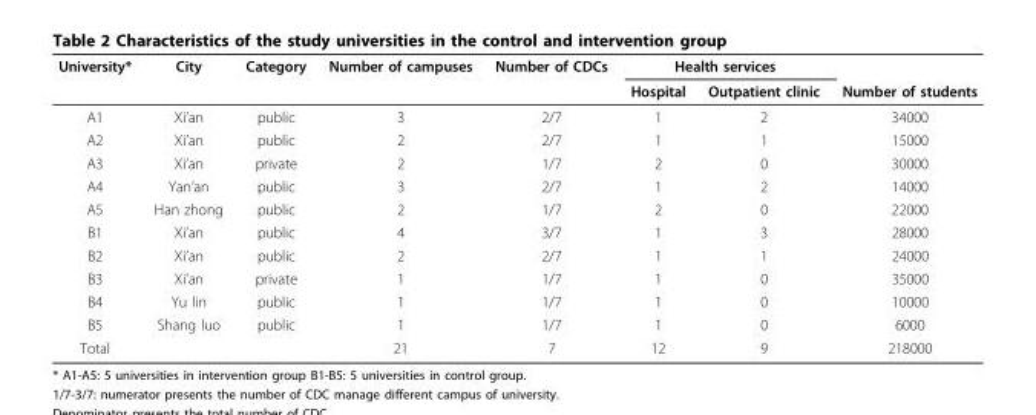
<table><thead><tr><td rowspan="2">University*</td><td rowspan="2">City</td><td rowspan="2">Category</td><td rowspan="2">Number of campuses</td><td rowspan="2">Number of CDCs</td><td colspan="2">Health services</td><td rowspan="2">Number of students</td></tr><tr><td>Hospital</td><td>Outpatient clinic</td></tr></thead><tbody><tr><td>A1</td><td>Xi’an</td><td>public</td><td>3</td><td>2/7</td><td>1</td><td>2</td><td>34000</td></tr><tr><td>A2</td><td>Xi’an</td><td>public</td><td>2</td><td>2/7</td><td>1</td><td>1</td><td>15000</td></tr><tr><td>A3</td><td>Xi’an</td><td>private</td><td>2</td><td>1/7</td><td>2</td><td>0</td><td>30000</td></tr><tr><td>A4</td><td>Yan’an</td><td>public</td><td>3</td><td>2/7</td><td>1</td><td>2</td><td>14000</td></tr><tr><td>A5</td><td>Han zhong</td><td>public</td><td>2</td><td>1/7</td><td>2</td><td>0</td><td>22000</td></tr><tr><td>B1</td><td>Xi’an</td><td>public</td><td>4</td><td>3/7</td><td>1</td><td>3</td><td>28000</td></tr><tr><td>B2</td><td>Xi’an</td><td>public</td><td>2</td><td>2/7</td><td>1</td><td>1</td><td>24000</td></tr><tr><td>B3</td><td>Xi’an</td><td>private</td><td>1</td><td>1/7</td><td>1</td><td>0</td><td>35000</td></tr><tr><td>B4</td><td>Yu lin</td><td>public</td><td>1</td><td>1/7</td><td>1</td><td>0</td><td>10000</td></tr><tr><td>B5</td><td>Shang luo</td><td>public</td><td>1</td><td>1/7</td><td>1</td><td>0</td><td>6000</td></tr><tr><td>Total</td><td></td><td></td><td>21</td><td>7</td><td>12</td><td>9</td><td>218000</td></tr></tbody></table>